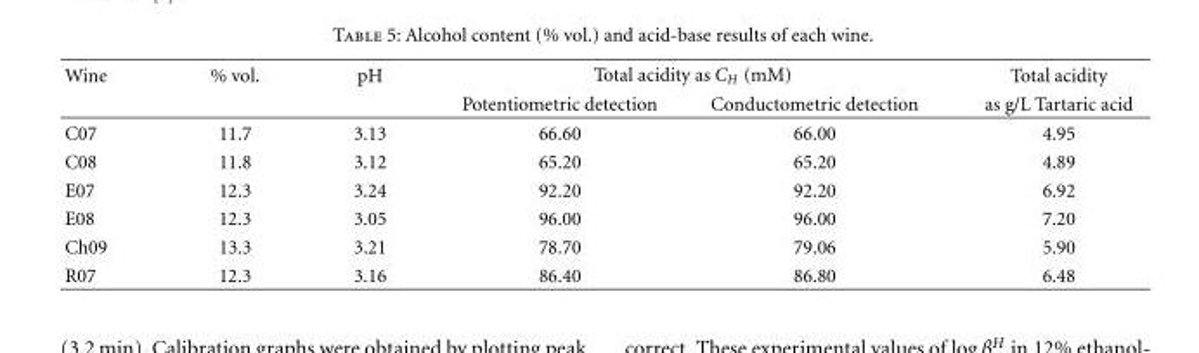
<table><thead><tr><td rowspan="2">Wine</td><td rowspan="2">% vol.</td><td rowspan="2">pH</td><td colspan="2">Total acidity as C<sub>H</sub> (mM)</td><td rowspan="2">Total acidity as g/L Tartaric acid</td></tr><tr><td>Potentiometric detection</td><td>Conductometric detection</td></tr></thead><tbody><tr><td>C07</td><td>11.7</td><td>3.13</td><td>66.60</td><td>66.00</td><td>4.95</td></tr><tr><td>C08</td><td>11.8</td><td>3.12</td><td>65.20</td><td>65.20</td><td>4.89</td></tr><tr><td>E07</td><td>12.3</td><td>3.24</td><td>92.20</td><td>92.20</td><td>6.92</td></tr><tr><td>E08</td><td>12.3</td><td>3.05</td><td>96.00</td><td>96.00</td><td>7.20</td></tr><tr><td>Ch09</td><td>13.3</td><td>3.21</td><td>78.70</td><td>79.06</td><td>5.90</td></tr><tr><td>R07</td><td>12.3</td><td>3.16</td><td>86.40</td><td>86.80</td><td>6.48</td></tr></tbody></table>